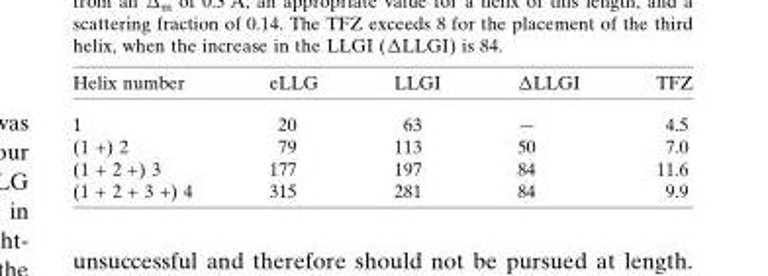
<table><thead><tr><td>Helix number</td><td>eLLG</td><td>LLGI</td><td>ΔLLGI</td><td>TFZ</td></tr></thead><tbody><tr><td>1</td><td>20</td><td>63</td><td>—</td><td>4.5</td></tr><tr><td>(1 +) 2</td><td>79</td><td>113</td><td>50</td><td>7.0</td></tr><tr><td>(1 + 2 +) 3</td><td>177</td><td>197</td><td>84</td><td>11.6</td></tr><tr><td>(1 + 2 + 3 +) 4</td><td>315</td><td>281</td><td>84</td><td>9.9</td></tr></tbody></table>